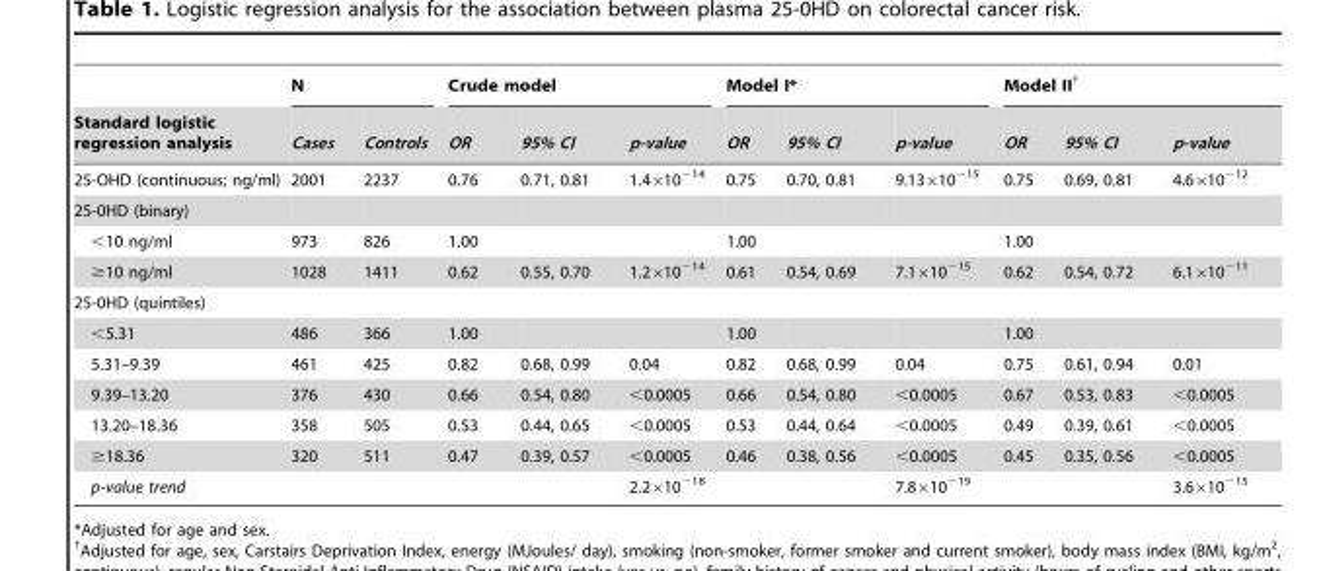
<table><thead><tr><td rowspan="2">Standard logistic regression analysis</td><td colspan="2">N</td><td colspan="3">Crude model</td><td colspan="3">Model I*</td><td colspan="3">Model II†</td></tr><tr><td>Cases</td><td>Controls</td><td>OR</td><td>95% CI</td><td>p-value</td><td>OR</td><td>95% CI</td><td>p-value</td><td>OR</td><td>95% CI</td><td>p-value</td></tr></thead><tbody><tr><td>25-OHD (continuous; ng/ml)</td><td>2001</td><td>2237</td><td>0.76</td><td>0.71, 0.81</td><td>1.4×10<sup>−14</sup></td><td>0.75</td><td>0.70, 0.81</td><td>9.13×10<sup>−15</sup></td><td>0.75</td><td>0.69, 0.81</td><td>4.6×10<sup>−12</sup></td></tr><tr><td colspan="12">25-0HD (binary)</td></tr><tr><td>&lt;10 ng/ml</td><td>973</td><td>826</td><td>1.00</td><td></td><td></td><td>1.00</td><td></td><td></td><td>1.00</td><td></td><td></td></tr><tr><td>≥10 ng/ml</td><td>1028</td><td>1411</td><td>0.62</td><td>0.55, 0.70</td><td>1.2×10<sup>−14</sup></td><td>0.61</td><td>0.54, 0.69</td><td>7.1×10<sup>−15</sup></td><td>0.62</td><td>0.54, 0.72</td><td>6.1×10<sup>−11</sup></td></tr><tr><td colspan="12">25-0HD (quintiles)</td></tr><tr><td>&lt;5.31</td><td>486</td><td>366</td><td>1.00</td><td></td><td></td><td>1.00</td><td></td><td></td><td>1.00</td><td></td><td></td></tr><tr><td>5.31–9.39</td><td>461</td><td>425</td><td>0.82</td><td>0.68, 0.99</td><td>0.04</td><td>0.82</td><td>0.68, 0.99</td><td>0.04</td><td>0.75</td><td>0.61, 0.94</td><td>0.01</td></tr><tr><td>9.39–13.20</td><td>376</td><td>430</td><td>0.66</td><td>0.54, 0.80</td><td>&lt;0.0005</td><td>0.66</td><td>0.54, 0.80</td><td>&lt;0.0005</td><td>0.67</td><td>0.53, 0.83</td><td>&lt;0.0005</td></tr><tr><td>13.20–18.36</td><td>358</td><td>505</td><td>0.53</td><td>0.44, 0.65</td><td>&lt;0.0005</td><td>0.53</td><td>0.44, 0.64</td><td>&lt;0.0005</td><td>0.49</td><td>0.39, 0.61</td><td>&lt;0.0005</td></tr><tr><td>≥18.36</td><td>320</td><td>511</td><td>0.47</td><td>0.39, 0.57</td><td>&lt;0.0005</td><td>0.46</td><td>0.38, 0.56</td><td>&lt;0.0005</td><td>0.45</td><td>0.35, 0.56</td><td>&lt;0.0005</td></tr><tr><td>p-value trend</td><td></td><td></td><td></td><td></td><td>2.2×10<sup>−18</sup></td><td></td><td></td><td>7.8×10<sup>−19</sup></td><td></td><td></td><td>3.6×10<sup>−15</sup></td></tr></tbody></table>